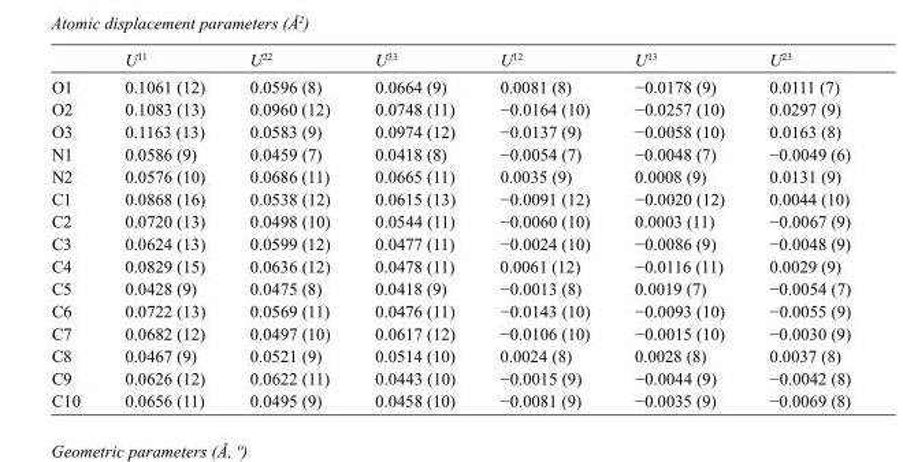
<table><thead><tr><td></td><td>U<sup>11</sup></td><td>U<sup>22</sup></td><td>U<sup>33</sup></td><td>U<sup>12</sup></td><td>U<sup>13</sup></td><td>U<sup>23</sup></td></tr></thead><tbody><tr><td>O1</td><td>0.1061 (12)</td><td>0.0596 (8)</td><td>0.0664 (9)</td><td>0.0081 (8)</td><td>−0.0178 (9)</td><td>0.0111 (7)</td></tr><tr><td>O2</td><td>0.1083 (13)</td><td>0.0960 (12)</td><td>0.0748 (11)</td><td>−0.0164 (10)</td><td>−0.0257 (10)</td><td>0.0297 (9)</td></tr><tr><td>O3</td><td>0.1163 (13)</td><td>0.0583 (9)</td><td>0.0974 (12)</td><td>−0.0137 (9)</td><td>−0.0058 (10)</td><td>0.0163 (8)</td></tr><tr><td>N1</td><td>0.0586 (9)</td><td>0.0459 (7)</td><td>0.0418 (8)</td><td>−0.0054 (7)</td><td>−0.0048 (7)</td><td>−0.0049 (6)</td></tr><tr><td>N2</td><td>0.0576 (10)</td><td>0.0686 (11)</td><td>0.0665 (11)</td><td>0.0035 (9)</td><td>0.0008 (9)</td><td>0.0131 (9)</td></tr><tr><td>C1</td><td>0.0868 (16)</td><td>0.0538 (12)</td><td>0.0615 (13)</td><td>−0.0091 (12)</td><td>−0.0020 (12)</td><td>0.0044 (10)</td></tr><tr><td>C2</td><td>0.0720 (13)</td><td>0.0498 (10)</td><td>0.0544 (11)</td><td>−0.0060 (10)</td><td>0.0003 (11)</td><td>−0.0067 (9)</td></tr><tr><td>C3</td><td>0.0624 (13)</td><td>0.0599 (12)</td><td>0.0477 (11)</td><td>−0.0024 (10)</td><td>−0.0086 (9)</td><td>−0.0048 (9)</td></tr><tr><td>C4</td><td>0.0829 (15)</td><td>0.0636 (12)</td><td>0.0478 (11)</td><td>0.0061 (12)</td><td>−0.0116 (11)</td><td>0.0029 (9)</td></tr><tr><td>C5</td><td>0.0428 (9)</td><td>0.0475 (8)</td><td>0.0418 (9)</td><td>−0.0013 (8)</td><td>0.0019 (7)</td><td>−0.0054 (7)</td></tr><tr><td>C6</td><td>0.0722 (13)</td><td>0.0569 (11)</td><td>0.0476 (11)</td><td>−0.0143 (10)</td><td>−0.0093 (10)</td><td>−0.0055 (9)</td></tr><tr><td>C7</td><td>0.0682 (12)</td><td>0.0497 (10)</td><td>0.0617 (12)</td><td>−0.0106 (10)</td><td>−0.0015 (10)</td><td>−0.0030 (9)</td></tr><tr><td>C8</td><td>0.0467 (9)</td><td>0.0521 (9)</td><td>0.0514 (10)</td><td>0.0024 (8)</td><td>0.0028 (8)</td><td>0.0037 (8)</td></tr><tr><td>C9</td><td>0.0626 (12)</td><td>0.0622 (11)</td><td>0.0443 (10)</td><td>−0.0015 (9)</td><td>−0.0044 (9)</td><td>−0.0042 (8)</td></tr><tr><td>C10</td><td>0.0656 (11)</td><td>0.0495 (9)</td><td>0.0458 (10)</td><td>−0.0081 (9)</td><td>−0.0035 (9)</td><td>−0.0069 (8)</td></tr></tbody></table>